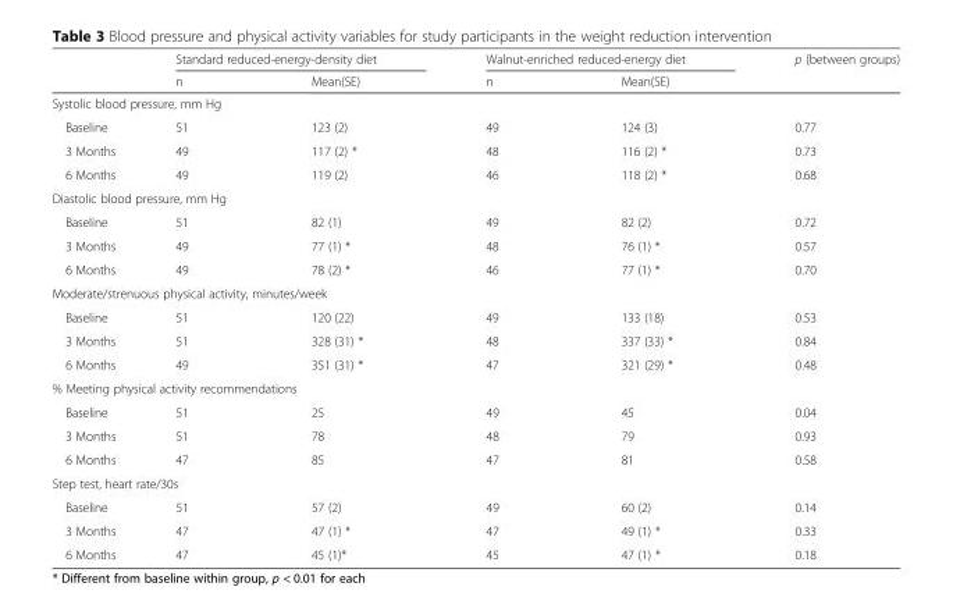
<table><thead><tr><td rowspan="2"></td><td colspan="2">Standard reduced-energy-density diet</td><td colspan="2">Walnut-enriched reduced-energy diet</td><td rowspan="2">p (between groups)</td></tr><tr><td>n</td><td>Mean(SE)</td><td>n</td><td>Mean(SE)</td></tr></thead><tbody><tr><td colspan="6">Systolic blood pressure, mm Hg</td></tr><tr><td>Baseline</td><td>51</td><td>123 (2)</td><td>49</td><td>124 (3)</td><td>0.77</td></tr><tr><td>3 Months</td><td>49</td><td>117 (2) *</td><td>48</td><td>116 (2) *</td><td>0.73</td></tr><tr><td>6 Months</td><td>49</td><td>119 (2)</td><td>46</td><td>118 (2) *</td><td>0.68</td></tr><tr><td colspan="6">Diastolic blood pressure, mm Hg</td></tr><tr><td>Baseline</td><td>51</td><td>82 (1)</td><td>49</td><td>82 (2)</td><td>0.72</td></tr><tr><td>3 Months</td><td>49</td><td>77 (1) *</td><td>48</td><td>76 (1) *</td><td>0.57</td></tr><tr><td>6 Months</td><td>49</td><td>78 (2) *</td><td>46</td><td>77 (1) *</td><td>0.70</td></tr><tr><td colspan="6">Moderate/strenuous physical activity, minutes/week</td></tr><tr><td>Baseline</td><td>51</td><td>120 (22)</td><td>49</td><td>133 (18)</td><td>0.53</td></tr><tr><td>3 Months</td><td>51</td><td>328 (31) *</td><td>48</td><td>337 (33) *</td><td>0.84</td></tr><tr><td>6 Months</td><td>49</td><td>351 (31) *</td><td>47</td><td>321 (29) *</td><td>0.48</td></tr><tr><td colspan="6">% Meeting physical activity recommendations</td></tr><tr><td>Baseline</td><td>51</td><td>25</td><td>49</td><td>45</td><td>0.04</td></tr><tr><td>3 Months</td><td>51</td><td>78</td><td>48</td><td>79</td><td>0.93</td></tr><tr><td>6 Months</td><td>47</td><td>85</td><td>47</td><td>81</td><td>0.58</td></tr><tr><td colspan="6">Step test, heart rate/30s</td></tr><tr><td>Baseline</td><td>51</td><td>57 (2)</td><td>49</td><td>60 (2)</td><td>0.14</td></tr><tr><td>3 Months</td><td>47</td><td>47 (1) *</td><td>47</td><td>49 (1) *</td><td>0.33</td></tr><tr><td>6 Months</td><td>47</td><td>45 (1)*</td><td>45</td><td>47 (1) *</td><td>0.18</td></tr></tbody></table>